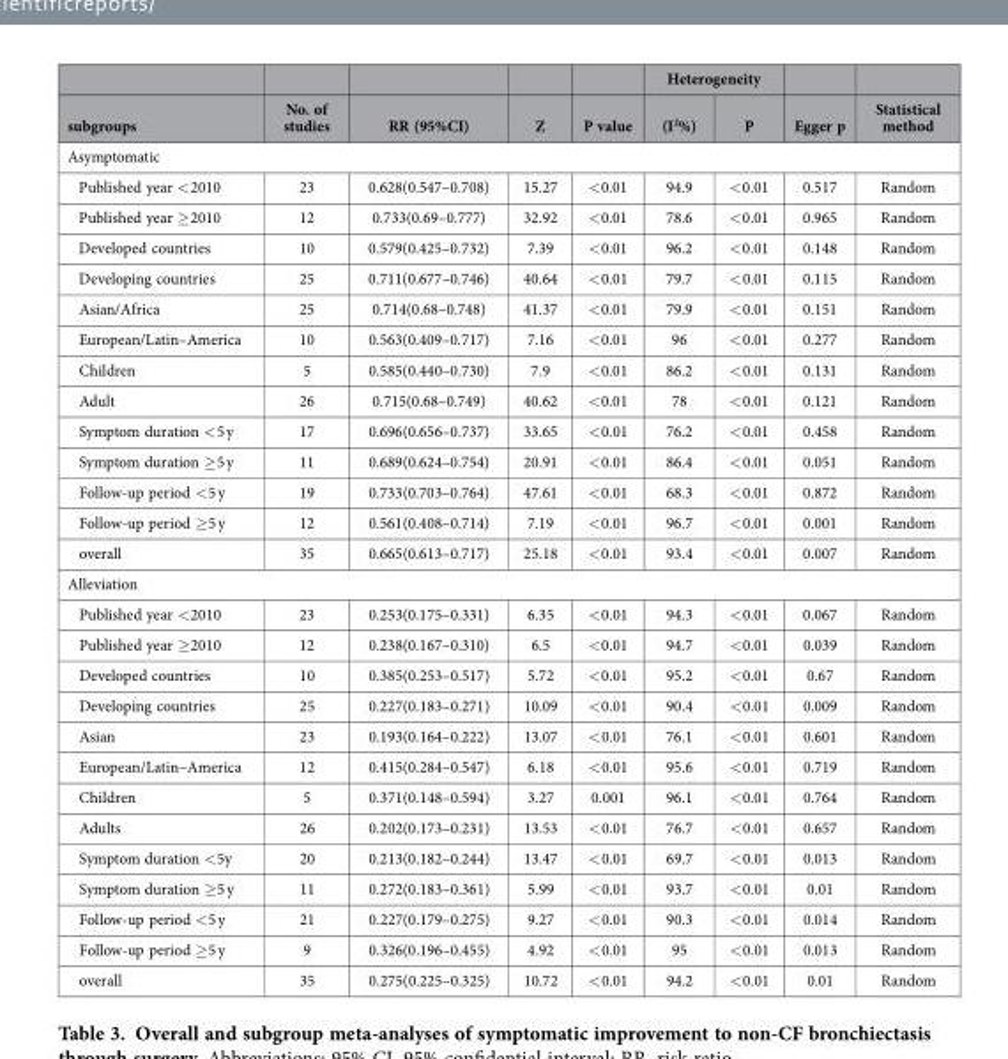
<table><thead><tr><td rowspan="2">subgroups</td><td rowspan="2">No. of studies</td><td rowspan="2">RR (95%CI)</td><td rowspan="2">Z</td><td rowspan="2">P value</td><td colspan="2">Heterogeneity</td><td rowspan="2">Egger p</td><td rowspan="2">Statistical method</td></tr><tr><td>(I<sup>2</sup>%)</td><td>P</td></tr></thead><tbody><tr><td colspan="9">Asymptomatic</td></tr><tr><td>Published year &lt; 2010</td><td>23</td><td>0.628(0.547–0.708)</td><td>15.27</td><td>&lt; 0.01</td><td>94.9</td><td>&lt; 0.01</td><td>0.517</td><td>Random</td></tr><tr><td>Published year ≥ 2010</td><td>12</td><td>0.733(0.69–0.777)</td><td>32.92</td><td>&lt; 0.01</td><td>78.6</td><td>&lt; 0.01</td><td>0.965</td><td>Random</td></tr><tr><td>Developed countries</td><td>10</td><td>0.579(0.425–0.732)</td><td>7.39</td><td>&lt; 0.01</td><td>96.2</td><td>&lt; 0.01</td><td>0.148</td><td>Random</td></tr><tr><td>Developing countries</td><td>25</td><td>0.711(0.677–0.746)</td><td>40.64</td><td>&lt; 0.01</td><td>79.7</td><td>&lt; 0.01</td><td>0.115</td><td>Random</td></tr><tr><td>Asian/Africa</td><td>25</td><td>0.714(0.68–0.748)</td><td>41.37</td><td>&lt; 0.01</td><td>79.9</td><td>&lt; 0.01</td><td>0.151</td><td>Random</td></tr><tr><td>European/Latin–America</td><td>10</td><td>0.563(0.409–0.717)</td><td>7.16</td><td>&lt; 0.01</td><td>96</td><td>&lt; 0.01</td><td>0.277</td><td>Random</td></tr><tr><td>Children</td><td>5</td><td>0.585(0.440–0.730)</td><td>7.9</td><td>&lt; 0.01</td><td>86.2</td><td>&lt; 0.01</td><td>0.131</td><td>Random</td></tr><tr><td>Adult</td><td>26</td><td>0.715(0.68–0.749)</td><td>40.62</td><td>&lt; 0.01</td><td>78</td><td>&lt; 0.01</td><td>0.121</td><td>Random</td></tr><tr><td>Symptom duration &lt; 5 y</td><td>17</td><td>0.696(0.656–0.737)</td><td>33.65</td><td>&lt; 0.01</td><td>76.2</td><td>&lt; 0.01</td><td>0.458</td><td>Random</td></tr><tr><td>Symptom duration ≥ 5 y</td><td>11</td><td>0.689(0.624–0.754)</td><td>20.91</td><td>&lt; 0.01</td><td>86.4</td><td>&lt; 0.01</td><td>0.051</td><td>Random</td></tr><tr><td>Follow-up period &lt; 5 y</td><td>19</td><td>0.733(0.703–0.764)</td><td>47.61</td><td>&lt; 0.01</td><td>68.3</td><td>&lt; 0.01</td><td>0.872</td><td>Random</td></tr><tr><td>Follow-up period ≥ 5 y</td><td>12</td><td>0.561(0.408–0.714)</td><td>7.19</td><td>&lt; 0.01</td><td>96.7</td><td>&lt; 0.01</td><td>0.001</td><td>Random</td></tr><tr><td>overall</td><td>35</td><td>0.665(0.613–0.717)</td><td>25.18</td><td>&lt; 0.01</td><td>93.4</td><td>&lt; 0.01</td><td>0.007</td><td>Random</td></tr><tr><td colspan="9">Alleviation</td></tr><tr><td>Published year &lt; 2010</td><td>23</td><td>0.253(0.175–0.331)</td><td>6.35</td><td>&lt; 0.01</td><td>94.3</td><td>&lt; 0.01</td><td>0.067</td><td>Random</td></tr><tr><td>Published year ≥ 2010</td><td>12</td><td>0.238(0.167–0.310)</td><td>6.5</td><td>&lt; 0.01</td><td>94.7</td><td>&lt; 0.01</td><td>0.039</td><td>Random</td></tr><tr><td>Developed countries</td><td>10</td><td>0.385(0.253–0.517)</td><td>5.72</td><td>&lt; 0.01</td><td>95.2</td><td>&lt; 0.01</td><td>0.67</td><td>Random</td></tr><tr><td>Developing countries</td><td>25</td><td>0.227(0.183–0.271)</td><td>10.09</td><td>&lt; 0.01</td><td>90.4</td><td>&lt; 0.01</td><td>0.009</td><td>Random</td></tr><tr><td>Asian</td><td>23</td><td>0.193(0.164–0.222)</td><td>13.07</td><td>&lt; 0.01</td><td>76.1</td><td>&lt; 0.01</td><td>0.601</td><td>Random</td></tr><tr><td>European/Latin–America</td><td>12</td><td>0.415(0.284–0.547)</td><td>6.18</td><td>&lt; 0.01</td><td>95.6</td><td>&lt; 0.01</td><td>0.719</td><td>Random</td></tr><tr><td>Children</td><td>5</td><td>0.371(0.148–0.594)</td><td>3.27</td><td>0.001</td><td>96.1</td><td>&lt; 0.01</td><td>0.764</td><td>Random</td></tr><tr><td>Adults</td><td>26</td><td>0.202(0.173–0.231)</td><td>13.53</td><td>&lt; 0.01</td><td>76.7</td><td>&lt; 0.01</td><td>0.657</td><td>Random</td></tr><tr><td>Symptom duration &lt; 5y</td><td>20</td><td>0.213(0.182–0.244)</td><td>13.47</td><td>&lt; 0.01</td><td>69.7</td><td>&lt; 0.01</td><td>0.013</td><td>Random</td></tr><tr><td>Symptom duration ≥ 5 y</td><td>11</td><td>0.272(0.183–0.361)</td><td>5.99</td><td>&lt; 0.01</td><td>93.7</td><td>&lt; 0.01</td><td>0.01</td><td>Random</td></tr><tr><td>Follow-up period &lt; 5 y</td><td>21</td><td>0.227(0.179–0.275)</td><td>9.27</td><td>&lt; 0.01</td><td>90.3</td><td>&lt; 0.01</td><td>0.014</td><td>Random</td></tr><tr><td>Follow-up period ≥ 5 y</td><td>9</td><td>0.326(0.196–0.455)</td><td>4.92</td><td>&lt; 0.01</td><td>95</td><td>&lt; 0.01</td><td>0.013</td><td>Random</td></tr><tr><td>overall</td><td>35</td><td>0.275(0.225–0.325)</td><td>10.72</td><td>&lt; 0.01</td><td>94.2</td><td>&lt; 0.01</td><td>0.01</td><td>Random</td></tr></tbody></table>